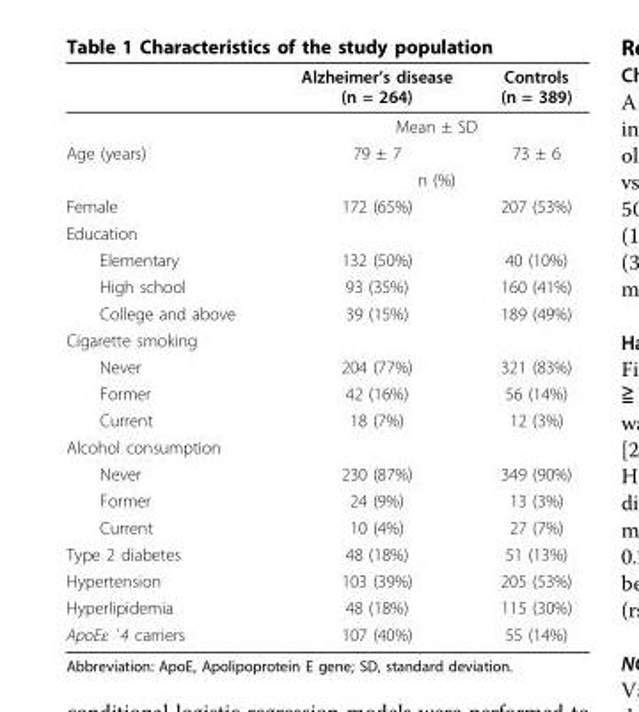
<table><thead><tr><td></td><td>Alzheimer’s disease (n = 264)</td><td>Controls (n = 389)</td></tr></thead><tbody><tr><td></td><td colspan="2">Mean ± SD</td></tr><tr><td rowspan="2">Age (years)</td><td>79 ± 7</td><td>73 ± 6</td></tr><tr><td colspan="2">n (%)</td></tr><tr><td>Female</td><td>172 (65%)</td><td>207 (53%)</td></tr><tr><td colspan="3">Education</td></tr><tr><td>Elementary</td><td>132 (50%)</td><td>40 (10%)</td></tr><tr><td>High school</td><td>93 (35%)</td><td>160 (41%)</td></tr><tr><td>College and above</td><td>39 (15%)</td><td>189 (49%)</td></tr><tr><td colspan="3">Cigarette smoking</td></tr><tr><td>Never</td><td>204 (77%)</td><td>321 (83%)</td></tr><tr><td>Former</td><td>42 (16%)</td><td>56 (14%)</td></tr><tr><td>Current</td><td>18 (7%)</td><td>12 (3%)</td></tr><tr><td colspan="3">Alcohol consumption</td></tr><tr><td>Never</td><td>230 (87%)</td><td>349 (90%)</td></tr><tr><td>Former</td><td>24 (9%)</td><td>13 (3%)</td></tr><tr><td>Current</td><td>10 (4%)</td><td>27 (7%)</td></tr><tr><td>Type 2 diabetes</td><td>48 (18%)</td><td>51 (13%)</td></tr><tr><td>Hypertension</td><td>103 (39%)</td><td>205 (53%)</td></tr><tr><td>Hyperlipidemia</td><td>48 (18%)</td><td>115 (30%)</td></tr><tr><td>ApoEε `4 carriers</td><td>107 (40%)</td><td>55 (14%)</td></tr></tbody></table>